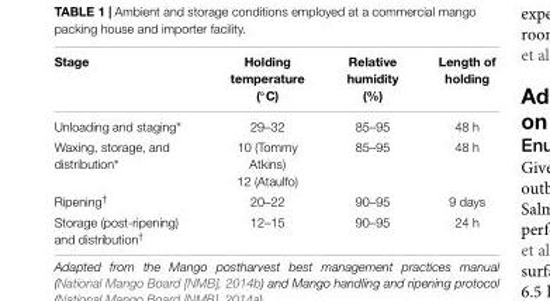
<table><thead><tr><td>Stage</td><td>Holding temperature (◦C)</td><td>Relative humidity (%)</td><td>Length of holding</td></tr></thead><tbody><tr><td>Unloading and staging∗</td><td>29–32</td><td>85–95</td><td>48 h</td></tr><tr><td>Waxing, storage, and distribution∗</td><td>10 (Tommy Atkins) 12 (Ataulfo)</td><td>85–95</td><td>48 h</td></tr><tr><td>Ripening<sup>†</sup></td><td>20–22</td><td>90–95</td><td>9 days</td></tr><tr><td>Storage (post-ripening) and distribution<sup>†</sup></td><td>12–15</td><td>90–95</td><td>24 h</td></tr></tbody></table>